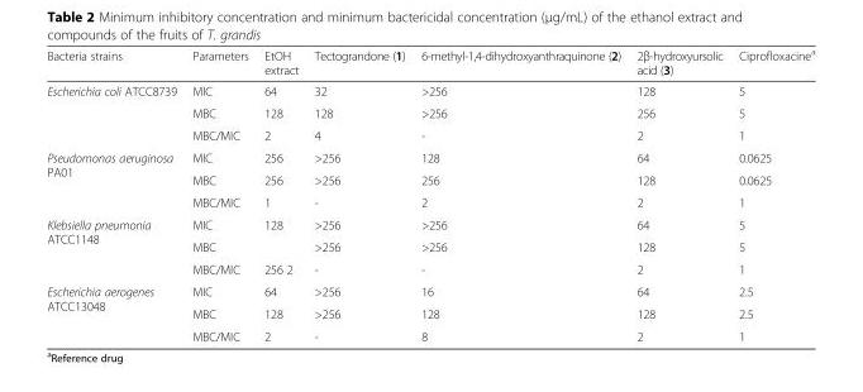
<table><thead><tr><td>Bacteria strains</td><td>Parameters</td><td>EtOH extract</td><td>Tectograndone (1)</td><td>6-methyl-1,4-dihydroxyanthraquinone (2)</td><td>2β-hydroxyursolic acid (3)</td><td>Ciprofloxacine<sup>a</sup></td></tr></thead><tbody><tr><td rowspan="3">Escherichia coli ATCC8739</td><td>MIC</td><td>64</td><td>32</td><td>&gt;256</td><td>128</td><td>5</td></tr><tr><td>MBC</td><td>128</td><td>128</td><td>&gt;256</td><td>256</td><td>5</td></tr><tr><td>MBC/MIC</td><td>2</td><td>4</td><td>-</td><td>2</td><td>1</td></tr><tr><td rowspan="3">Pseudomonas aeruginosa PA01</td><td>MIC</td><td>256</td><td>&gt;256</td><td>128</td><td>64</td><td>0.0625</td></tr><tr><td>MBC</td><td>256</td><td>&gt;256</td><td>256</td><td>128</td><td>0.0625</td></tr><tr><td>MBC/MIC</td><td>1</td><td>-</td><td>2</td><td>2</td><td>1</td></tr><tr><td rowspan="3">Klebsiella pneumonia ATCC1148</td><td>MIC</td><td>128</td><td>&gt;256</td><td>&gt;256</td><td>64</td><td>5</td></tr><tr><td>MBC</td><td></td><td>&gt;256</td><td>&gt;256</td><td>128</td><td>5</td></tr><tr><td>MBC/MIC</td><td>256 2</td><td>-</td><td>-</td><td>2</td><td>1</td></tr><tr><td rowspan="3">Escherichia aerogenes ATCC13048</td><td>MIC</td><td>64</td><td>&gt;256</td><td>16</td><td>64</td><td>2.5</td></tr><tr><td>MBC</td><td>128</td><td>&gt;256</td><td>128</td><td>128</td><td>2.5</td></tr><tr><td>MBC/MIC</td><td>2</td><td>-</td><td>8</td><td>2</td><td>1</td></tr></tbody></table>